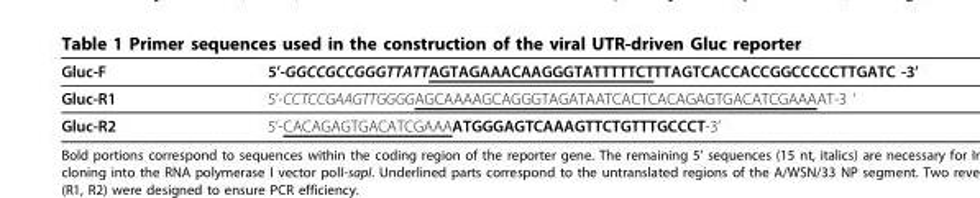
<table><thead><tr><td>Gluc-F</td><td>5’-GGCCGCCGGGTTATTAGTAGAAACAAGGGTATTTTTCTTTAGTCACCACCGGCCCCCTTGATC -3’</td></tr></thead><tbody><tr><td>Gluc-R1</td><td>5’-CCTCCGAAGTTGGGGAGCAAAAGCAGGGTAGATAATCACTCACAGAGTGACATCGAAAAT-3 ‘</td></tr><tr><td>Gluc-R2</td><td>5’-CACAGAGTGACATCGAAAATGGGAGTCAAAGTTCTGTTTGCCCT-3’</td></tr></tbody></table>